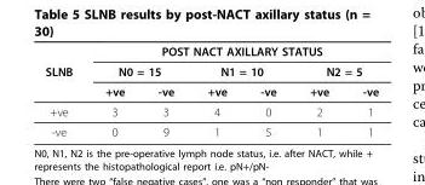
<table><thead><tr><td rowspan="3">SLNB</td><td colspan="6">POST NACT AXILLARY STATUS</td></tr><tr><td colspan="2">N0 = 15</td><td colspan="2">N1 = 10</td><td colspan="2">N2 = 5</td></tr><tr><td>+ve</td><td>-ve</td><td>+ve</td><td>-ve</td><td>+ve</td><td>-ve</td></tr></thead><tbody><tr><td>+ve</td><td>3</td><td>3</td><td>4</td><td>0</td><td>2</td><td>1</td></tr><tr><td>-ve</td><td>0</td><td>9</td><td>1</td><td>5</td><td>1</td><td>1</td></tr></tbody></table>